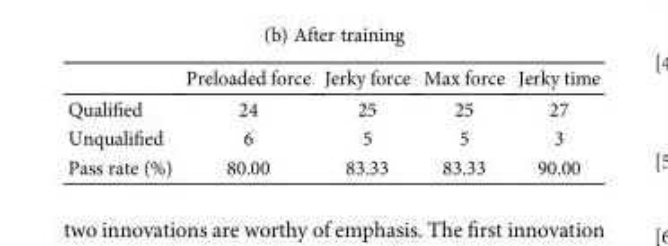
<table><thead><tr><td></td><td>Preloaded force</td><td>Jerky force</td><td>Max force</td><td>Jerky time</td></tr></thead><tbody><tr><td>Qualified</td><td>24</td><td>25</td><td>25</td><td>27</td></tr><tr><td>Unqualified</td><td>6</td><td>5</td><td>5</td><td>3</td></tr><tr><td>Pass rate (%)</td><td>80.00</td><td>83.33</td><td>83.33</td><td>90.00</td></tr></tbody></table>